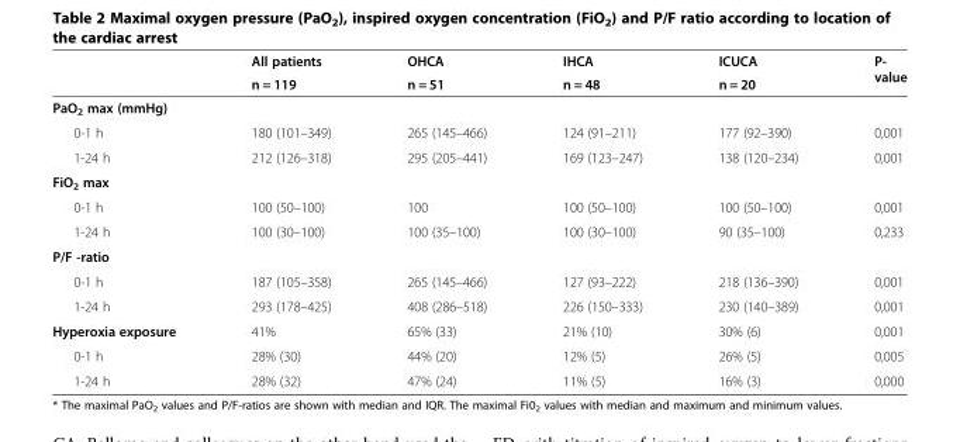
<table><thead><tr><td rowspan="2"></td><td rowspan="2">All patients n = 119</td><td rowspan="2">OHCA n = 51</td><td rowspan="2">IHCA n = 48</td><td rowspan="2">ICUCA n = 20</td><td rowspan="2">P- value</td></tr><tr></tr></thead><tbody><tr><td colspan="6">PaO<sub>2</sub> max (mmHg)</td></tr><tr><td>0-1 h</td><td>180 (101–349)</td><td>265 (145–466)</td><td>124 (91–211)</td><td>177 (92–390)</td><td>0,001</td></tr><tr><td>1-24 h</td><td>212 (126–318)</td><td>295 (205–441)</td><td>169 (123–247)</td><td>138 (120–234)</td><td>0,001</td></tr><tr><td colspan="6">FiO<sub>2</sub> max</td></tr><tr><td>0-1 h</td><td>100 (50–100)</td><td>100</td><td>100 (50–100)</td><td>100 (50–100)</td><td>0,001</td></tr><tr><td>1-24 h</td><td>100 (30–100)</td><td>100 (35–100)</td><td>100 (30–100)</td><td>90 (35–100)</td><td>0,233</td></tr><tr><td colspan="6">P/F -ratio</td></tr><tr><td>0-1 h</td><td>187 (105–358)</td><td>265 (145–466)</td><td>127 (93–222)</td><td>218 (136–390)</td><td>0,001</td></tr><tr><td>1-24 h</td><td>293 (178–425)</td><td>408 (286–518)</td><td>226 (150–333)</td><td>230 (140–389)</td><td>0,001</td></tr><tr><td>Hyperoxia exposure</td><td>41%</td><td>65% (33)</td><td>21% (10)</td><td>30% (6)</td><td>0,001</td></tr><tr><td>0-1 h</td><td>28% (30)</td><td>44% (20)</td><td>12% (5)</td><td>26% (5)</td><td>0,005</td></tr><tr><td>1-24 h</td><td>28% (32)</td><td>47% (24)</td><td>11% (5)</td><td>16% (3)</td><td>0,000</td></tr></tbody></table>